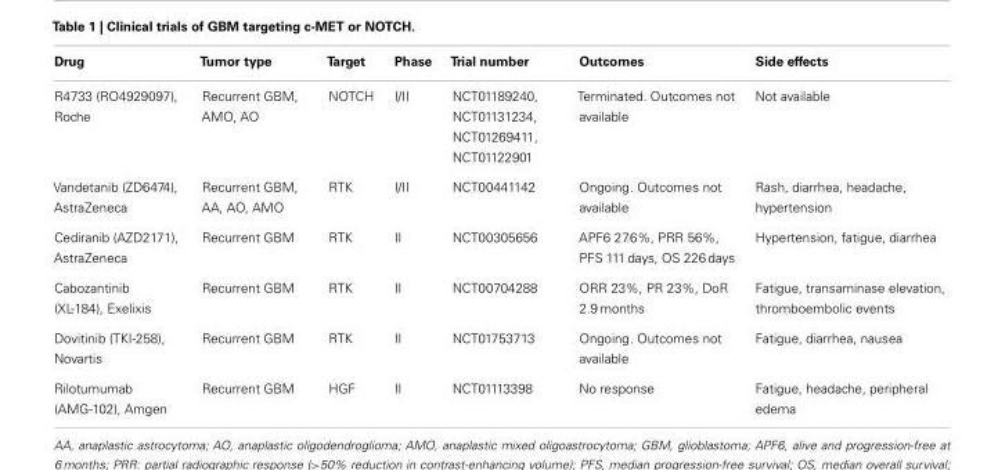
<table><thead><tr><td>Drug</td><td>Tumor type</td><td>Target</td><td>Phase</td><td>Trial number</td><td>Outcomes</td><td>Side effects</td></tr></thead><tbody><tr><td>R4733 (RO4929097), Roche</td><td>Recurrent GBM, AMO, AO</td><td>NOTCH</td><td>I/II</td><td>NCT01189240, NCT01131234, NCT01269411, NCT01122901</td><td>Terminated. Outcomes not available</td><td>Not available</td></tr><tr><td>Vandetanib (ZD6474), AstraZeneca</td><td>Recurrent GBM, AA, AO, AMO</td><td>RTK</td><td>I/II</td><td>NCT00441142</td><td>Ongoing. Outcomes not available</td><td>Rash, diarrhea, headache, hypertension</td></tr><tr><td>Cediranib (AZD2171), AstraZeneca</td><td>Recurrent GBM</td><td>RTK</td><td>II</td><td>NCT00305656</td><td>APF6 27.6%, PRR 56%, PFS 111 days, OS 226 days</td><td>Hypertension, fatigue, diarrhea</td></tr><tr><td>Cabozantinib (XL-184), Exelixis</td><td>Recurrent GBM</td><td>RTK</td><td>II</td><td>NCT00704288</td><td>ORR 23%, PR 23%, DoR 2.9 months</td><td>Fatigue, transaminase elevation, thromboembolic events</td></tr><tr><td>Dovitinib (TKI-258), Novartis</td><td>Recurrent GBM</td><td>RTK</td><td>II</td><td>NCT01753713</td><td>Ongoing. Outcomes not available</td><td>Fatigue, diarrhea, nausea</td></tr><tr><td>Rilotumumab (AMG-102), Amgen</td><td>Recurrent GBM</td><td>HGF</td><td>II</td><td>NCT01113398</td><td>No response</td><td>Fatigue, headache, peripheral edema</td></tr></tbody></table>